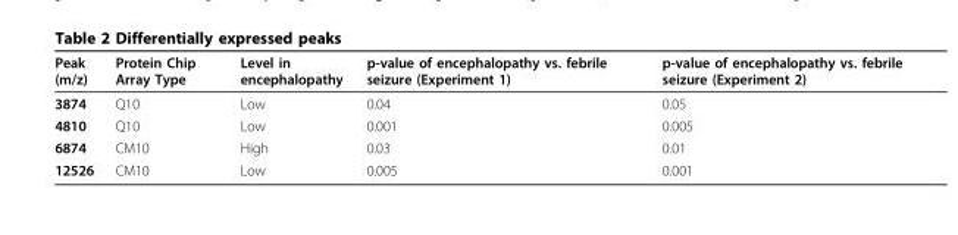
<table><thead><tr><td>Peak (m/z)</td><td>Protein Chip Array Type</td><td>Level in encephalopathy</td><td>p-value of encephalopathy vs. febrile seizure (Experiment 1)</td><td>p-value of encephalopathy vs. febrile seizure (Experiment 2)</td></tr></thead><tbody><tr><td>3874</td><td>Q10</td><td>Low</td><td>0.04</td><td>0.05</td></tr><tr><td>4810</td><td>Q10</td><td>Low</td><td>0.001</td><td>0.005</td></tr><tr><td>6874</td><td>CM10</td><td>High</td><td>0.03</td><td>0.01</td></tr><tr><td>12526</td><td>CM10</td><td>Low</td><td>0.005</td><td>0.001</td></tr></tbody></table>